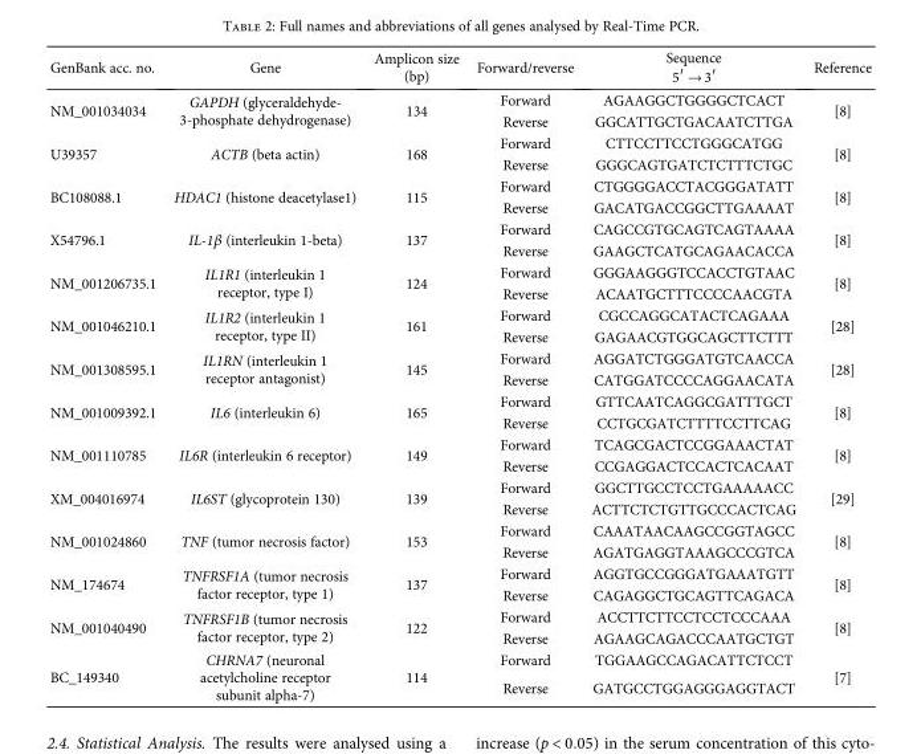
<table><thead><tr><td>GenBank acc. no.</td><td>Gene</td><td>Amplicon size (bp)</td><td>Forward/reverse</td><td>Sequence 5′ → 3′</td><td>Reference</td></tr></thead><tbody><tr><td rowspan="2">NM_001034034</td><td rowspan="2">GAPDH (glyceraldehyde- 3-phosphate dehydrogenase)</td><td rowspan="2">134</td><td>Forward</td><td>AGAAGGCTGGGGCTCACT</td><td rowspan="2">[8]</td></tr><tr><td>Reverse</td><td>GGCATTGCTGACAATCTTGA</td></tr><tr><td rowspan="2">U39357</td><td rowspan="2">ACTB (beta actin)</td><td rowspan="2">168</td><td>Forward</td><td>CTTCCTTCCTGGGCATGG</td><td rowspan="2">[8]</td></tr><tr><td>Reverse</td><td>GGGCAGTGATCTCTTTCTGC</td></tr><tr><td rowspan="2">BC108088.1</td><td rowspan="2">HDAC1 (histone deacetylase1)</td><td rowspan="2">115</td><td>Forward</td><td>CTGGGGACCTACGGGATATT</td><td rowspan="2">[8]</td></tr><tr><td>Reverse</td><td>GACATGACCGGCTTGAAAAT</td></tr><tr><td rowspan="2">X54796.1</td><td rowspan="2">IL-1β (interleukin 1-beta)</td><td rowspan="2">137</td><td>Forward</td><td>CAGCCGTGCAGTCAGTAAAA</td><td rowspan="2">[8]</td></tr><tr><td>Reverse</td><td>GAAGCTCATGCAGAACACCA</td></tr><tr><td rowspan="2">NM_001206735.1</td><td rowspan="2">IL1R1 (interleukin 1 receptor, type I)</td><td rowspan="2">124</td><td>Forward</td><td>GGGAAGGGTCCACCTGTAAC</td><td rowspan="2">[8]</td></tr><tr><td>Reverse</td><td>ACAATGCTTTCCCCAACGTA</td></tr><tr><td rowspan="2">NM_001046210.1</td><td rowspan="2">IL1R2 (interleukin 1 receptor, type II)</td><td rowspan="2">161</td><td>Forward</td><td>CGCCAGGCATACTCAGAAA</td><td rowspan="2">[28]</td></tr><tr><td>Reverse</td><td>GAGAACGTGGCAGCTTCTTT</td></tr><tr><td rowspan="2">NM_001308595.1</td><td rowspan="2">IL1RN (interleukin 1 receptor antagonist)</td><td rowspan="2">145</td><td>Forward</td><td>AGGATCTGGGATGTCAACCA</td><td rowspan="2">[28]</td></tr><tr><td>Reverse</td><td>CATGGATCCCCAGGAACATA</td></tr><tr><td rowspan="2">NM_001009392.1</td><td rowspan="2">IL6 (interleukin 6)</td><td rowspan="2">165</td><td>Forward</td><td>GTTCAATCAGGCGATTTGCT</td><td rowspan="2">[8]</td></tr><tr><td>Reverse</td><td>CCTGCGATCTTTTCCTTCAG</td></tr><tr><td rowspan="2">NM_001110785</td><td rowspan="2">IL6R (interleukin 6 receptor)</td><td rowspan="2">149</td><td>Forward</td><td>TCAGCGACTCCGGAAACTAT</td><td rowspan="2">[8]</td></tr><tr><td>Reverse</td><td>CCGAGGACTCCACTCACAAT</td></tr><tr><td rowspan="2">XM_004016974</td><td rowspan="2">IL6ST (glycoprotein 130)</td><td rowspan="2">139</td><td>Forward</td><td>GGCTTGCCTCCTGAAAAACC</td><td rowspan="2">[29]</td></tr><tr><td>Reverse</td><td>ACTTCTCTGTTGCCCACTCAG</td></tr><tr><td rowspan="2">NM_001024860</td><td rowspan="2">TNF (tumor necrosis factor)</td><td rowspan="2">153</td><td>Forward</td><td>CAAATAACAAGCCGGTAGCC</td><td rowspan="2">[8]</td></tr><tr><td>Reverse</td><td>AGATGAGGTAAAGCCCGTCA</td></tr><tr><td rowspan="2">NM_174674</td><td rowspan="2">TNFRSF1A (tumor necrosis factor receptor, type 1)</td><td rowspan="2">137</td><td>Forward</td><td>AGGTGCCGGGATGAAATGTT</td><td rowspan="2">[8]</td></tr><tr><td>Reverse</td><td>CAGAGGCTGCAGTTCAGACA</td></tr><tr><td rowspan="2">NM_001040490</td><td rowspan="2">TNFRSF1B (tumor necrosis factor receptor, type 2)</td><td rowspan="2">122</td><td>Forward</td><td>ACCTTCTTCCTCCTCCCAAA</td><td rowspan="2">[8]</td></tr><tr><td>Reverse</td><td>AGAAGCAGACCCAATGCTGT</td></tr><tr><td rowspan="2">BC_149340</td><td rowspan="2">CHRNA7 (neuronal acetylcholine receptor subunit alpha-7)</td><td rowspan="2">114</td><td>Forward</td><td>TGGAAGCCAGACATTCTCCT</td><td rowspan="2">[7]</td></tr><tr><td>Reverse</td><td>GATGCCTGGAGGGAGGTACT</td></tr></tbody></table>